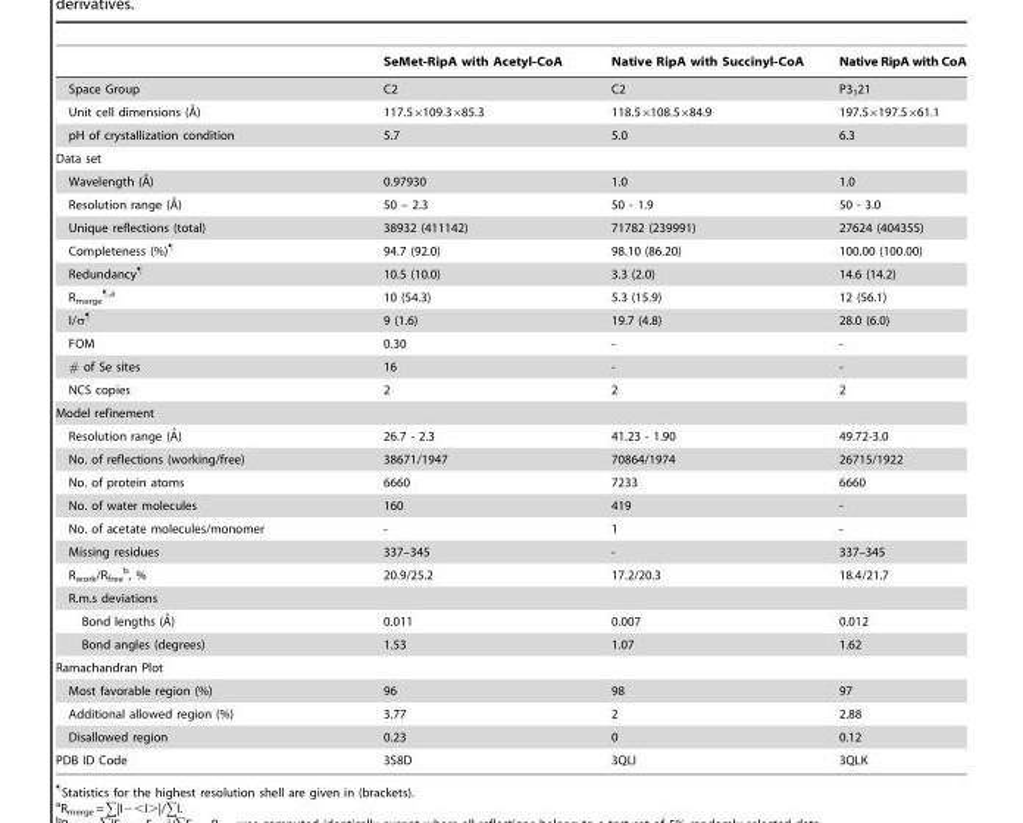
<table><thead><tr><td></td><td>SeMet-RipA with Acetyl-CoA</td><td>Native RipA with Succinyl-CoA</td><td>Native RipA with CoA</td></tr></thead><tbody><tr><td>Space Group</td><td>C2</td><td>C2</td><td>P3<sub>1</sub>21</td></tr><tr><td>Unit cell dimensions (A˚)</td><td>117.5×109.3×85.3</td><td>118.5×108.5×84.9</td><td>197.5×197.5×61.1</td></tr><tr><td>pH of crystallization condition</td><td>5.7</td><td>5.0</td><td>6.3</td></tr><tr><td colspan="4">Data set</td></tr><tr><td>Wavelength (A˚)</td><td>0.97930</td><td>1.0</td><td>1.0</td></tr><tr><td>Resolution range (A˚)</td><td>50 – 2.3</td><td>50 - 1.9</td><td>50 - 3.0</td></tr><tr><td>Unique reflections (total)</td><td>38932 (411142)</td><td>71782 (239991)</td><td>27624 (404355)</td></tr><tr><td>Completeness (%)¶</td><td>94.7 (92.0)</td><td>98.10 (86.20)</td><td>100.00 (100.00)</td></tr><tr><td>Redundancy¶</td><td>10.5 (10.0)</td><td>3.3 (2.0)</td><td>14.6 (14.2)</td></tr><tr><td>R<sub>merge</sub> ¶<sup>,</sup>a</td><td>10 (54.3)</td><td>5.3 (15.9)</td><td>12 (56.1)</td></tr><tr><td>I/σ¶</td><td>9 (1.6)</td><td>19.7 (4.8)</td><td>28.0 (6.0)</td></tr><tr><td>FOM</td><td>0.30</td><td>-</td><td>-</td></tr><tr><td># of Se sites</td><td>16</td><td>-</td><td>-</td></tr><tr><td>NCS copies</td><td>2</td><td>2</td><td>2</td></tr><tr><td colspan="4">Model refinement</td></tr><tr><td>Resolution range (A˚)</td><td>26.7 - 2.3</td><td>41.23 - 1.90</td><td>49.72-3.0</td></tr><tr><td>No. of reflections (working/free)</td><td>38671/1947</td><td>70864/1974</td><td>26715/1922</td></tr><tr><td>No. of protein atoms</td><td>6660</td><td>7233</td><td>6660</td></tr><tr><td>No. of water molecules</td><td>160</td><td>419</td><td>-</td></tr><tr><td>No. of acetate molecules/monomer</td><td>-</td><td>1</td><td>-</td></tr><tr><td>Missing residues</td><td>337–345</td><td>-</td><td>337–345</td></tr><tr><td>R<sub>work</sub>/R<sub>free</sub> b, %</td><td>20.9/25.2</td><td>17.2/20.3</td><td>18.4/21.7</td></tr><tr><td colspan="4">R.m.s deviations</td></tr><tr><td>Bond lengths (A˚)</td><td>0.011</td><td>0.007</td><td>0.012</td></tr><tr><td>Bond angles (degrees)</td><td>1.53</td><td>1.07</td><td>1.62</td></tr><tr><td colspan="4">Ramachandran Plot</td></tr><tr><td>Most favorable region (%)</td><td>96</td><td>98</td><td>97</td></tr><tr><td>Additional allowed region (%)</td><td>3.77</td><td>2</td><td>2.88</td></tr><tr><td>Disallowed region</td><td>0.23</td><td>0</td><td>0.12</td></tr><tr><td>PDB ID Code</td><td>3S8D</td><td>3QLI</td><td>3QLK</td></tr></tbody></table>